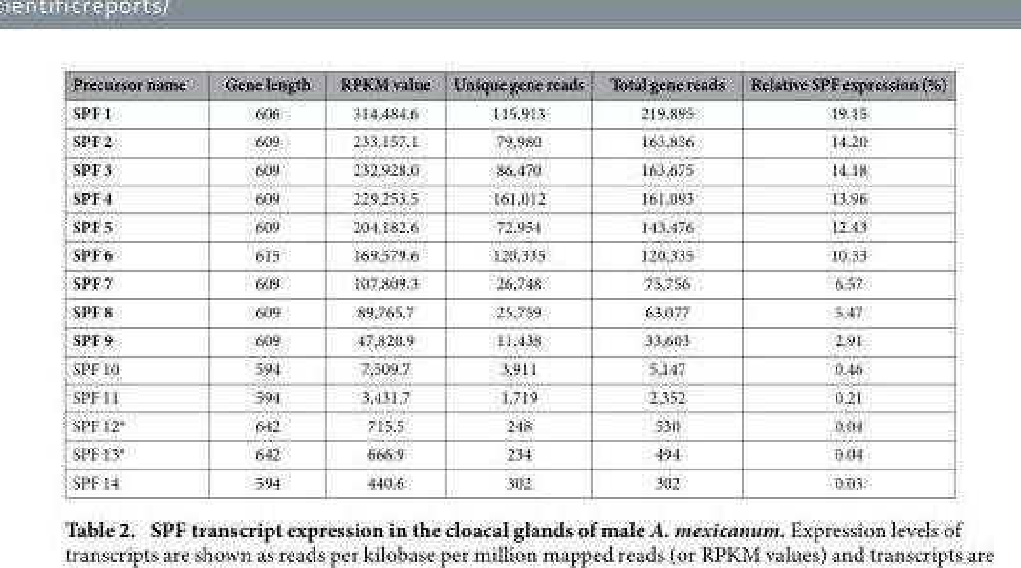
<table><thead><tr><td>Precursor name</td><td>Gene length</td><td>RPKM value</td><td>Unique gene reads</td><td>Total gene reads</td><td>Relative SPF expression (%)</td></tr></thead><tbody><tr><td>SPF 1</td><td>606</td><td>314,484.6</td><td>115,913</td><td>219,895</td><td>19.15</td></tr><tr><td>SPF 2</td><td>609</td><td>233,157.1</td><td>79,980</td><td>163,836</td><td>14.20</td></tr><tr><td>SPF 3</td><td>609</td><td>232,928.0</td><td>86,470</td><td>163,675</td><td>14.18</td></tr><tr><td>SPF 4</td><td>609</td><td>229,253.5</td><td>161,012</td><td>161,093</td><td>13.96</td></tr><tr><td>SPF 5</td><td>609</td><td>204,182.6</td><td>72,954</td><td>143,476</td><td>12.43</td></tr><tr><td>SPF 6</td><td>615</td><td>169,579.6</td><td>120,335</td><td>120,335</td><td>10.33</td></tr><tr><td>SPF 7</td><td>609</td><td>107,809.3</td><td>26,748</td><td>75,756</td><td>6.57</td></tr><tr><td>SPF 8</td><td>609</td><td>89,765.7</td><td>25,759</td><td>63,077</td><td>5.47</td></tr><tr><td>SPF 9</td><td>609</td><td>47,820.9</td><td>11,438</td><td>33,603</td><td>2.91</td></tr><tr><td>SPF 10</td><td>594</td><td>7,509.7</td><td>3,911</td><td>5,147</td><td>0.46</td></tr><tr><td>SPF 11</td><td>594</td><td>3,431.7</td><td>1,719</td><td>2,352</td><td>0.21</td></tr><tr><td>SPF 12*</td><td>642</td><td>715.5</td><td>248</td><td>530</td><td>0.04</td></tr><tr><td>SPF 13*</td><td>642</td><td>666.9</td><td>234</td><td>494</td><td>0.04</td></tr><tr><td>SPF 14</td><td>594</td><td>440.6</td><td>302</td><td>302</td><td>0.03</td></tr></tbody></table>